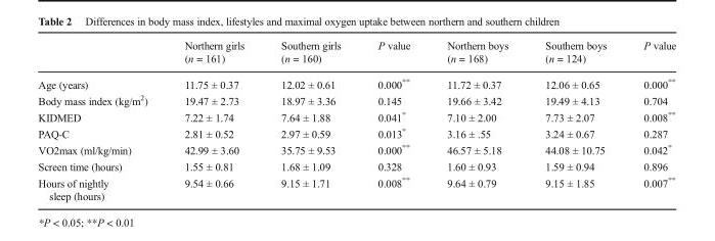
<table><thead><tr><td></td><td>Northern girls (n = 161)</td><td>Southern girls (n = 160)</td><td>P value</td><td>Northern boys (n = 168)</td><td>Southern boys (n = 124)</td><td>P value</td></tr></thead><tbody><tr><td>Age (years)</td><td>11.75 ± 0.37</td><td>12.02 ± 0.61</td><td>0.000**</td><td>11.72 ± 0.37</td><td>12.06 ± 0.65</td><td>0.000**</td></tr><tr><td>Body mass index (kg/m<sup>2</sup>)</td><td>19.47 ± 2.73</td><td>18.97 ± 3.36</td><td>0.145</td><td>19.66 ± 3.42</td><td>19.49 ± 4.13</td><td>0.704</td></tr><tr><td>KIDMED</td><td>7.22 ± 1.74</td><td>7.64 ± 1.88</td><td>0.041*</td><td>7.10 ± 2.00</td><td>7.73 ± 2.07</td><td>0.008**</td></tr><tr><td>PAQ-C</td><td>2.81 ± 0.52</td><td>2.97 ± 0.59</td><td>0.013*</td><td>3.16 ± .55</td><td>3.24 ± 0.67</td><td>0.287</td></tr><tr><td>VO2max (ml/kg/min)</td><td>42.99 ± 3.60</td><td>35.75 ± 9.53</td><td>0.000**</td><td>46.57 ± 5.18</td><td>44.08 ± 10.75</td><td>0.042*</td></tr><tr><td>Screen time (hours)</td><td>1.55 ± 0.81</td><td>1.68 ± 1.09</td><td>0.328</td><td>1.60 ± 0.93</td><td>1.59 ± 0.94</td><td>0.896</td></tr><tr><td>Hours of nightly sleep (hours)</td><td>9.54 ± 0.66</td><td>9.15 ± 1.71</td><td>0.008**</td><td>9.64 ± 0.79</td><td>9.15 ± 1.85</td><td>0.007**</td></tr></tbody></table>